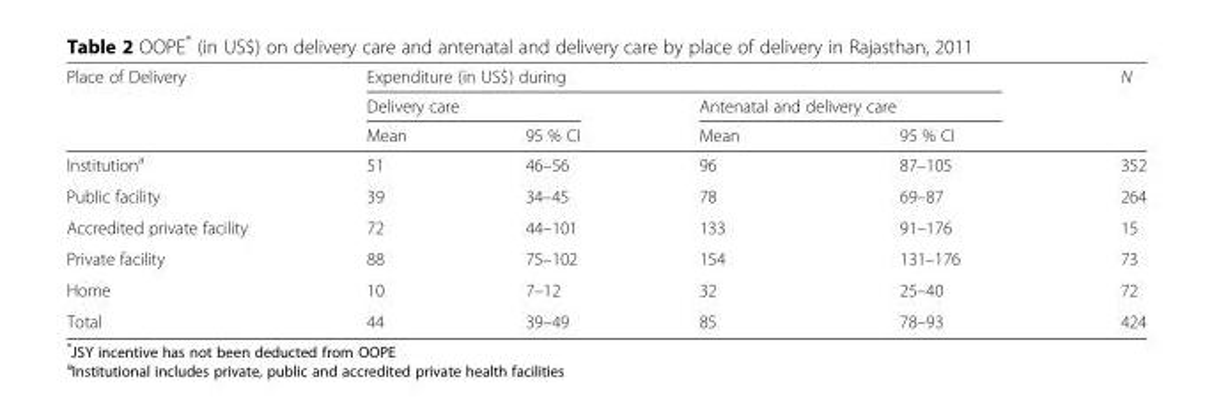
<table><thead><tr><td rowspan="3">Place of Delivery</td><td colspan="4">Expenditure (in US$) during</td><td rowspan="3">N</td></tr><tr><td colspan="2">Delivery care</td><td colspan="2">Antenatal and delivery care</td></tr><tr><td>Mean</td><td>95 % CI</td><td>Mean</td><td>95 % CI</td></tr></thead><tbody><tr><td>Institution<sup>a</sup></td><td>51</td><td>46–56</td><td>96</td><td>87–105</td><td>352</td></tr><tr><td>Public facility</td><td>39</td><td>34–45</td><td>78</td><td>69–87</td><td>264</td></tr><tr><td>Accredited private facility</td><td>72</td><td>44–101</td><td>133</td><td>91–176</td><td>15</td></tr><tr><td>Private facility</td><td>88</td><td>75–102</td><td>154</td><td>131–176</td><td>73</td></tr><tr><td>Home</td><td>10</td><td>7–12</td><td>32</td><td>25–40</td><td>72</td></tr><tr><td>Total</td><td>44</td><td>39–49</td><td>85</td><td>78–93</td><td>424</td></tr></tbody></table>